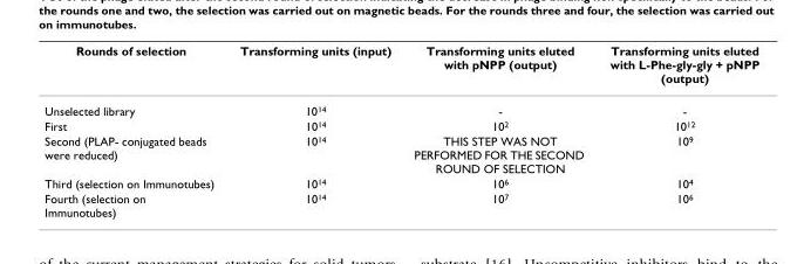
<table><thead><tr><td>Rounds of selection</td><td>Transforming units (input)</td><td>Transforming units eluted with pNPP (output)</td><td>Transforming units eluted with L-Phe-gly-gly + pNPP (output)</td></tr></thead><tbody><tr><td>Unselected library</td><td>1014</td><td>-</td><td>-</td></tr><tr><td>First</td><td>1014</td><td>102</td><td>1012</td></tr><tr><td>Second (PLAP- conjugated beads were reduced)</td><td>1014</td><td>THIS STEP WAS NOT PERFORMED FOR THE SECOND ROUND OF SELECTION</td><td>109</td></tr><tr><td>Third (selection on Immunotubes)</td><td>1014</td><td>106</td><td>104</td></tr><tr><td>Fourth (selection on Immunotubes)</td><td>1014</td><td>107</td><td>106</td></tr></tbody></table>